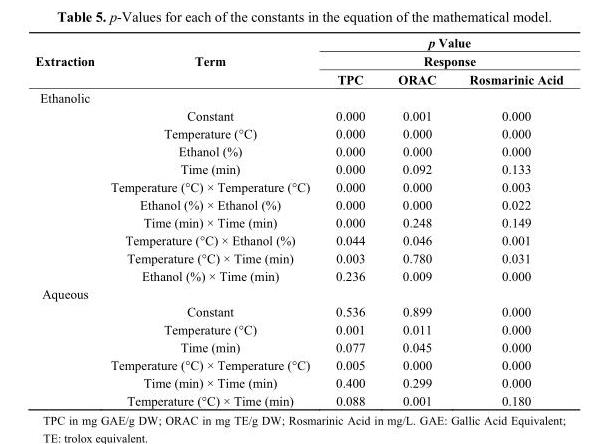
<table><thead><tr><td rowspan="3">Extraction</td><td rowspan="3">Term</td><td rowspan="2" colspan="3">p Value Response</td></tr><tr></tr><tr><td>TPC</td><td>ORAC</td><td>Rosmarinic Acid</td></tr></thead><tbody><tr><td colspan="5">Ethanolic</td></tr><tr><td></td><td>Constant</td><td>0.000</td><td>0.001</td><td>0.000</td></tr><tr><td></td><td>Temperature (°C)</td><td>0.000</td><td>0.000</td><td>0.000</td></tr><tr><td></td><td>Ethanol (%)</td><td>0.000</td><td>0.000</td><td>0.000</td></tr><tr><td></td><td>Time (min)</td><td>0.000</td><td>0.092</td><td>0.133</td></tr><tr><td></td><td>Temperature (°C) × Temperature (°C)</td><td>0.000</td><td>0.000</td><td>0.003</td></tr><tr><td></td><td>Ethanol (%) × Ethanol (%)</td><td>0.000</td><td>0.000</td><td>0.022</td></tr><tr><td></td><td>Time (min) × Time (min)</td><td>0.000</td><td>0.248</td><td>0.149</td></tr><tr><td></td><td>Temperature (°C) × Ethanol (%)</td><td>0.044</td><td>0.046</td><td>0.001</td></tr><tr><td></td><td>Temperature (°C) × Time (min)</td><td>0.003</td><td>0.780</td><td>0.031</td></tr><tr><td></td><td>Ethanol (%) × Time (min)</td><td>0.236</td><td>0.009</td><td>0.000</td></tr><tr><td colspan="5">Aqueous</td></tr><tr><td></td><td>Constant</td><td>0.536</td><td>0.899</td><td>0.000</td></tr><tr><td></td><td>Temperature (°C)</td><td>0.001</td><td>0.011</td><td>0.000</td></tr><tr><td></td><td>Time (min)</td><td>0.077</td><td>0.045</td><td>0.000</td></tr><tr><td></td><td>Temperature (°C) × Temperature (°C)</td><td>0.005</td><td>0.000</td><td>0.000</td></tr><tr><td></td><td>Time (min) × Time (min)</td><td>0.400</td><td>0.299</td><td>0.000</td></tr><tr><td></td><td>Temperature (°C) × Time (min)</td><td>0.088</td><td>0.001</td><td>0.180</td></tr></tbody></table>